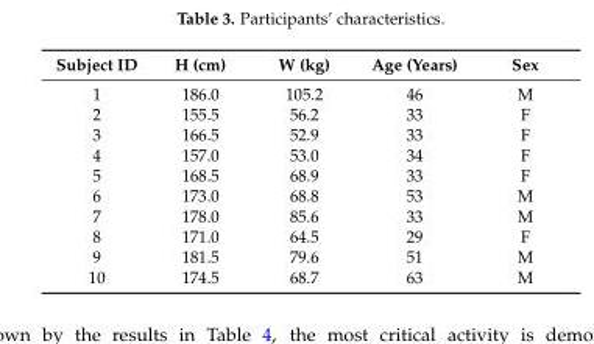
<table><thead><tr><td>Subject ID</td><td>H (cm)</td><td>W (kg)</td><td>Age (Years)</td><td>Sex</td></tr></thead><tbody><tr><td>1</td><td>186.0</td><td>105.2</td><td>46</td><td>M</td></tr><tr><td>2</td><td>155.5</td><td>56.2</td><td>33</td><td>F</td></tr><tr><td>3</td><td>166.5</td><td>52.9</td><td>33</td><td>F</td></tr><tr><td>4</td><td>157.0</td><td>53.0</td><td>34</td><td>F</td></tr><tr><td>5</td><td>168.5</td><td>68.9</td><td>33</td><td>F</td></tr><tr><td>6</td><td>173.0</td><td>68.8</td><td>53</td><td>M</td></tr><tr><td>7</td><td>178.0</td><td>85.6</td><td>33</td><td>M</td></tr><tr><td>8</td><td>171.0</td><td>64.5</td><td>29</td><td>F</td></tr><tr><td>9</td><td>181.5</td><td>79.6</td><td>51</td><td>M</td></tr><tr><td>10</td><td>174.5</td><td>68.7</td><td>63</td><td>M</td></tr></tbody></table>